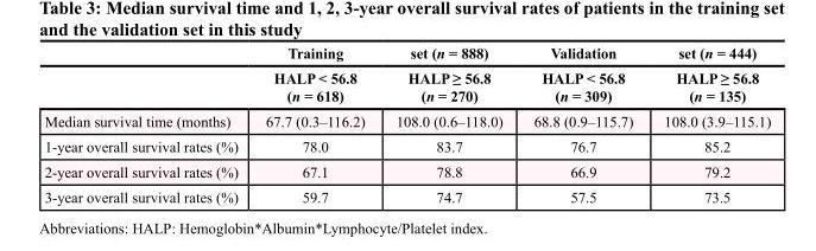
<table><thead><tr><td rowspan="2"></td><td rowspan="2">Training HALP &lt; 56.8 (n = 618)</td><td rowspan="2">set (n = 888) HALP ≥ 56.8 (n = 270)</td><td rowspan="2">Validation HALP &lt; 56.8 (n = 309)</td><td rowspan="2">set (n = 444) HALP ≥ 56.8 (n = 135)</td></tr><tr></tr></thead><tbody><tr><td>Median survival time (months)</td><td>67.7 (0.3–116.2)</td><td>108.0 (0.6–118.0)</td><td>68.8 (0.9–115.7)</td><td>108.0 (3.9–115.1)</td></tr><tr><td>1-year overall survival rates (%)</td><td>78.0</td><td>83.7</td><td>76.7</td><td>85.2</td></tr><tr><td>2-year overall survival rates (%)</td><td>67.1</td><td>78.8</td><td>66.9</td><td>79.2</td></tr><tr><td>3-year overall survival rates (%)</td><td>59.7</td><td>74.7</td><td>57.5</td><td>73.5</td></tr></tbody></table>